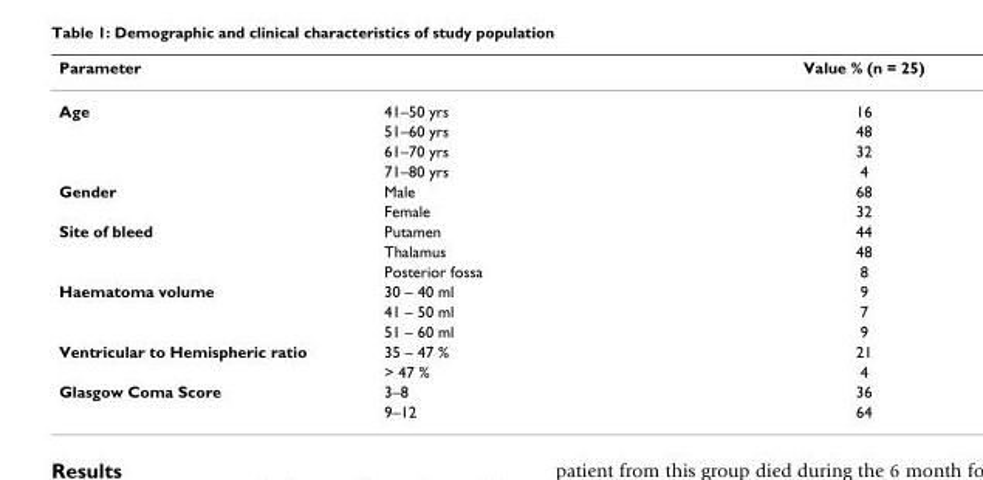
<table><thead><tr><td colspan="2">Parameter</td><td rowspan="2">Value % (n = 25) 16</td></tr><tr><td>Age</td><td>41–50 yrs</td></tr></thead><tbody><tr><td></td><td>51–60 yrs</td><td>48</td></tr><tr><td></td><td>61–70 yrs</td><td>32</td></tr><tr><td></td><td>71–80 yrs</td><td>4</td></tr><tr><td rowspan="2">Gender</td><td>Male</td><td>68</td></tr><tr><td>Female</td><td>32</td></tr><tr><td rowspan="3">Site of bleed</td><td>Putamen</td><td>44</td></tr><tr><td>Thalamus</td><td>48</td></tr><tr><td>Posterior fossa</td><td>8</td></tr><tr><td rowspan="3">Haematoma volume</td><td>30 – 40 ml</td><td>9</td></tr><tr><td>41 – 50 ml</td><td>7</td></tr><tr><td>51 – 60 ml</td><td>9</td></tr><tr><td rowspan="2">Ventricular to Hemispheric ratio</td><td>35 – 47 %</td><td>21</td></tr><tr><td>&gt; 47 %</td><td>4</td></tr><tr><td rowspan="2">Glasgow Coma Score</td><td>3–8</td><td>36</td></tr><tr><td>9–12</td><td>64</td></tr></tbody></table>